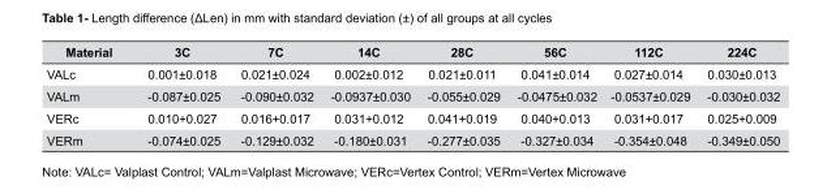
<table><thead><tr><td>Material</td><td>3C</td><td>7C</td><td>14C</td><td>28C</td><td>56C</td><td>112C</td><td>224C</td></tr></thead><tbody><tr><td>VALc</td><td>0.001±0.018</td><td>0.021±0.024</td><td>0.002±0.012</td><td>0.021±0.011</td><td>0.041±0.014</td><td>0.027±0.014</td><td>0.030±0.013</td></tr><tr><td>VALm</td><td>-0.087±0.025</td><td>-0.090±0.032</td><td>-0.0937±0.030</td><td>-0.055±0.029</td><td>-0.0475±0.032</td><td>-0.0537±0.029</td><td>-0.030±0.032</td></tr><tr><td>VERc</td><td>0.010+0.027</td><td>0.016+0.017</td><td>0.031+0.012</td><td>0.041+0.019</td><td>0.040+0.013</td><td>0.031+0.017</td><td>0.025+0.009</td></tr><tr><td>VERm</td><td>-0.074±0.025</td><td>-0.129±0.032</td><td>-0.180±0.031</td><td>-0.277±0.035</td><td>-0.327±0.034</td><td>-0.354±0.048</td><td>-0.349±0.050</td></tr></tbody></table>